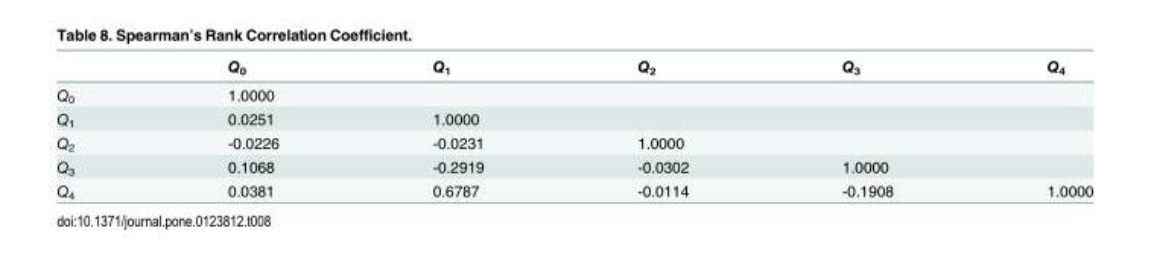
<table><thead><tr><td></td><td>Q<sub>0</sub></td><td>Q<sub>1</sub></td><td>Q<sub>2</sub></td><td>Q<sub>3</sub></td><td>Q<sub>4</sub></td></tr></thead><tbody><tr><td>Q<sub>0</sub></td><td>1.0000</td><td></td><td></td><td></td><td></td></tr><tr><td>Q<sub>1</sub></td><td>0.0251</td><td>1.0000</td><td></td><td></td><td></td></tr><tr><td>Q<sub>2</sub></td><td>-0.0226</td><td>-0.0231</td><td>1.0000</td><td></td><td></td></tr><tr><td>Q<sub>3</sub></td><td>0.1068</td><td>-0.2919</td><td>-0.0302</td><td>1.0000</td><td></td></tr><tr><td>Q<sub>4</sub></td><td>0.0381</td><td>0.6787</td><td>-0.0114</td><td>-0.1908</td><td>1.0000</td></tr></tbody></table>